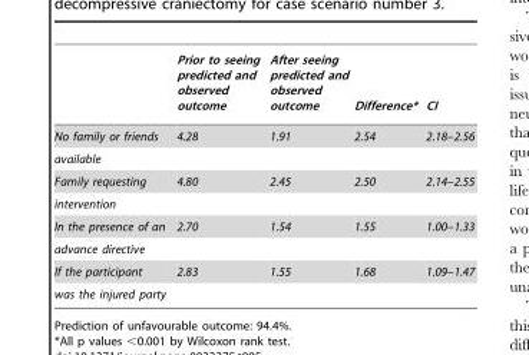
<table><thead><tr><td></td><td>Prior to seeing predicted and observed outcome</td><td>After seeing predicted and observed outcome</td><td>Difference*</td><td>CI</td></tr></thead><tbody><tr><td>No family or friends</td><td>4.28</td><td>1.91</td><td>2.54</td><td>2.18–2.56</td></tr><tr><td colspan="5">available</td></tr><tr><td>Family requesting</td><td>4.80</td><td>2.45</td><td>2.50</td><td>2.14–2.55</td></tr><tr><td colspan="5">intervention</td></tr><tr><td>In the presence of an</td><td>2.70</td><td>1.54</td><td>1.55</td><td>1.00–1.33</td></tr><tr><td colspan="5">advance directive</td></tr><tr><td>If the participant</td><td>2.83</td><td>1.55</td><td>1.68</td><td>1.09–1.47</td></tr><tr><td>was the injured party</td><td></td><td></td><td></td><td></td></tr></tbody></table>